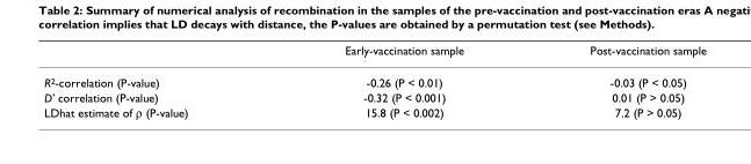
<table><thead><tr><td></td><td>Early-vaccination sample</td><td>Post-vaccination sample</td></tr></thead><tbody><tr><td>R<sup>2</sup>-correlation (P-value)</td><td>-0.26 (P &lt; 0.01)</td><td>-0.03 (P &lt; 0.05)</td></tr><tr><td>D&#x27; correlation (P-value)</td><td>-0.32 (P &lt; 0.001)</td><td>0.01 (P &gt; 0.05)</td></tr><tr><td>LDhat estimate of ρ (P-value)</td><td>15.8 (P &lt; 0.002)</td><td>7.2 (P &gt; 0.05)</td></tr></tbody></table>